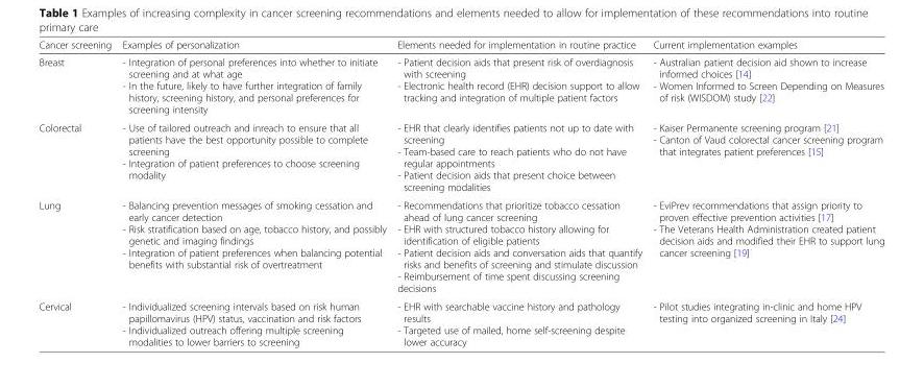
<table><thead><tr><td>Cancer screening</td><td>Examples of personalization</td><td>Elements needed for implementation in routine practice</td><td>Current implementation examples</td></tr></thead><tbody><tr><td>Breast</td><td>- Integration of personal preferences into whether to initiate screening and at what age - In the future, likely to have further integration of family history, screening history, and personal preferences for screening intensity</td><td>- Patient decision aids that present risk of overdiagnosis with screening - Electronic health record (EHR) decision support to allow tracking and integration of multiple patient factors</td><td>- Australian patient decision aid shown to increase informed choices [14] - Women Informed to Screen Depending on Measures of risk (WISDOM) study [22]</td></tr><tr><td>Colorectal</td><td>- Use of tailored outreach and inreach to ensure that all patients have the best opportunity possible to complete screening - Integration of patient preferences to choose screening modality</td><td>- EHR that clearly identifies patients not up to date with screening - Team-based care to reach patients who do not have regular appointments - Patient decision aids that present choice between screening modalities</td><td>- Kaiser Permanente screening program [21] - Canton of Vaud colorectal cancer screening program that integrates patient preferences [15]</td></tr><tr><td>Lung</td><td>- Balancing prevention messages of smoking cessation and early cancer detection - Risk stratification based on age, tobacco history, and possibly genetic and imaging findings - Integration of patient preferences when balancing potential benefits with substantial risk of overtreatment</td><td>- Recommendations that prioritize tobacco cessation ahead of lung cancer screening - EHR with structured tobacco history allowing for identification of eligible patients - Patient decision aids and conversation aids that quantify risks and benefits of screening and stimulate discussion - Reimbursement of time spent discussing screening decisions</td><td>- EviPrev recommendations that assign priority to proven effective prevention activities [17] - The Veterans Health Administration created patient decision aids and modified their EHR to support lung cancer screening [19]</td></tr><tr><td>Cervical</td><td>- Individualized screening intervals based on risk human papillomavirus (HPV) status, vaccination and risk factors - Individualized outreach offering multiple screening modalities to lower barriers to screening</td><td>- EHR with searchable vaccine history and pathology results - Targeted use of mailed, home self-screening despite lower accuracy</td><td>- Pilot studies integrating in-clinic and home HPV testing into organized screening in Italy [24]</td></tr></tbody></table>